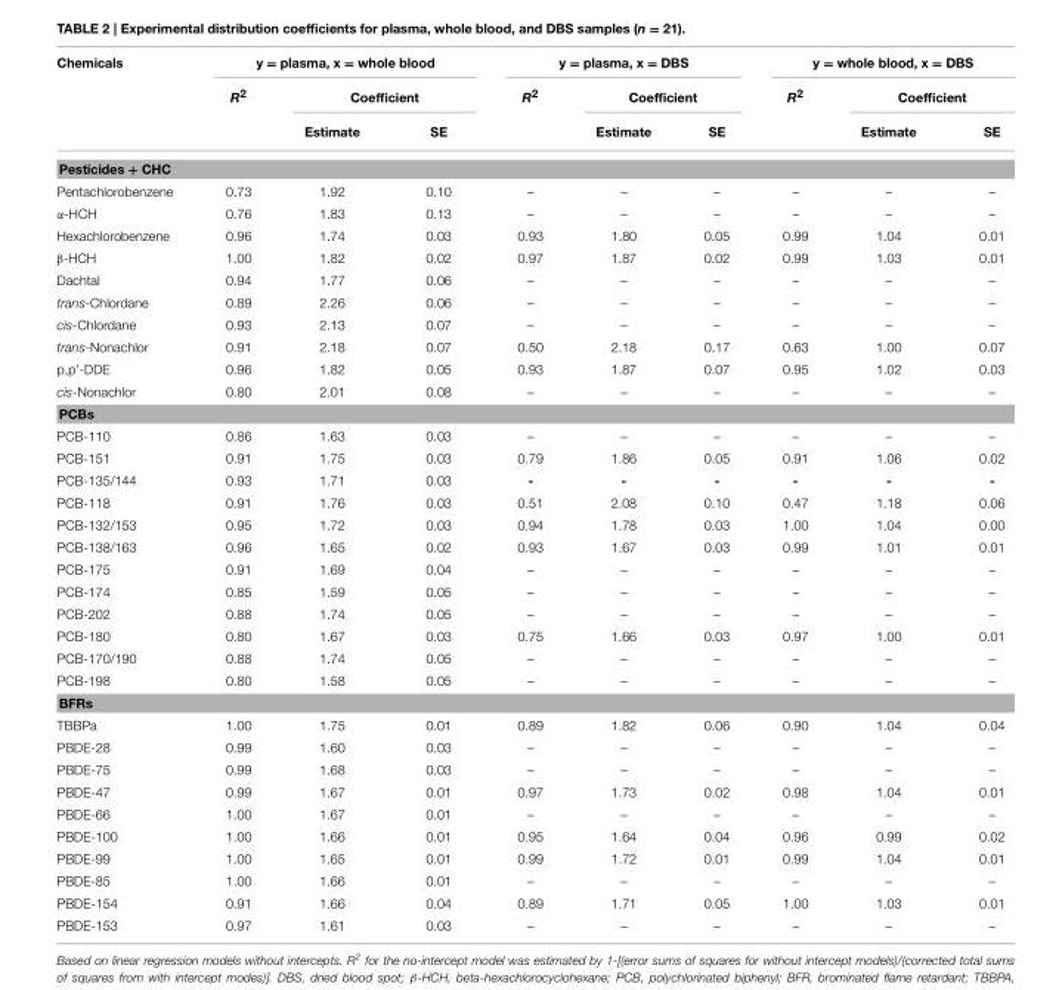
<table><thead><tr><td rowspan="3">Chemicals</td><td colspan="3">y = plasma, x = whole blood</td><td colspan="3">y = plasma, x = DBS</td><td colspan="3">y = whole blood, x = DBS</td></tr><tr><td rowspan="2">R<sup>2</sup></td><td colspan="2">Coefficient</td><td rowspan="2">R<sup>2</sup></td><td colspan="2">Coefficient</td><td rowspan="2">R<sup>2</sup></td><td colspan="2">Coefficient</td></tr><tr><td>Estimate</td><td>SE</td><td>Estimate</td><td>SE</td><td>Estimate</td><td>SE</td></tr></thead><tbody><tr><td colspan="10">Pesticides + CHC</td></tr><tr><td>Pentachlorobenzene</td><td>0.73</td><td>1.92</td><td>0.10</td><td>–</td><td>–</td><td>–</td><td>–</td><td>–</td><td>–</td></tr><tr><td>α-HCH</td><td>0.76</td><td>1.83</td><td>0.13</td><td>–</td><td>–</td><td>–</td><td>–</td><td>–</td><td>–</td></tr><tr><td>Hexachlorobenzene</td><td>0.96</td><td>1.74</td><td>0.03</td><td>0.93</td><td>1.80</td><td>0.05</td><td>0.99</td><td>1.04</td><td>0.01</td></tr><tr><td>β-HCH</td><td>1.00</td><td>1.82</td><td>0.02</td><td>0.97</td><td>1.87</td><td>0.02</td><td>0.99</td><td>1.03</td><td>0.01</td></tr><tr><td>Dachtal</td><td>0.94</td><td>1.77</td><td>0.06</td><td>–</td><td>–</td><td>–</td><td>–</td><td>–</td><td>–</td></tr><tr><td>trans-Chlordane</td><td>0.89</td><td>2.26</td><td>0.06</td><td>–</td><td>–</td><td>–</td><td>–</td><td>–</td><td>–</td></tr><tr><td>cis-Chlordane</td><td>0.93</td><td>2.13</td><td>0.07</td><td>–</td><td>–</td><td>–</td><td>–</td><td>–</td><td>–</td></tr><tr><td>trans-Nonachlor</td><td>0.91</td><td>2.18</td><td>0.07</td><td>0.50</td><td>2.18</td><td>0.17</td><td>0.63</td><td>1.00</td><td>0.07</td></tr><tr><td>p,p’-DDE</td><td>0.96</td><td>1.82</td><td>0.05</td><td>0.93</td><td>1.87</td><td>0.07</td><td>0.95</td><td>1.02</td><td>0.03</td></tr><tr><td>cis-Nonachlor</td><td>0.80</td><td>2.01</td><td>0.08</td><td>–</td><td>–</td><td>–</td><td>–</td><td>–</td><td>–</td></tr><tr><td colspan="10">PCBs</td></tr><tr><td>PCB-110</td><td>0.86</td><td>1.63</td><td>0.03</td><td>–</td><td>–</td><td>–</td><td>–</td><td>–</td><td>–</td></tr><tr><td>PCB-151</td><td>0.91</td><td>1.75</td><td>0.03</td><td>0.79</td><td>1.86</td><td>0.05</td><td>0.91</td><td>1.06</td><td>0.02</td></tr><tr><td>PCB-135/144</td><td>0.93</td><td>1.71</td><td>0.03</td><td>-</td><td>-</td><td>-</td><td>-</td><td>-</td><td>-</td></tr><tr><td>PCB-118</td><td>0.91</td><td>1.76</td><td>0.03</td><td>0.51</td><td>2.08</td><td>0.10</td><td>0.47</td><td>1.18</td><td>0.06</td></tr><tr><td>PCB-132/153</td><td>0.95</td><td>1.72</td><td>0.03</td><td>0.94</td><td>1.78</td><td>0.03</td><td>1.00</td><td>1.04</td><td>0.00</td></tr><tr><td>PCB-138/163</td><td>0.96</td><td>1.65</td><td>0.02</td><td>0.93</td><td>1.67</td><td>0.03</td><td>0.99</td><td>1.01</td><td>0.01</td></tr><tr><td>PCB-175</td><td>0.91</td><td>1.69</td><td>0.04</td><td>–</td><td>–</td><td>–</td><td>–</td><td>–</td><td>–</td></tr><tr><td>PCB-174</td><td>0.85</td><td>1.59</td><td>0.05</td><td>–</td><td>–</td><td>–</td><td>–</td><td>–</td><td>–</td></tr><tr><td>PCB-202</td><td>0.88</td><td>1.74</td><td>0.05</td><td>–</td><td>–</td><td>–</td><td>–</td><td>–</td><td>–</td></tr><tr><td>PCB-180</td><td>0.80</td><td>1.67</td><td>0.03</td><td>0.75</td><td>1.66</td><td>0.03</td><td>0.97</td><td>1.00</td><td>0.01</td></tr><tr><td>PCB-170/190</td><td>0.88</td><td>1.74</td><td>0.05</td><td>–</td><td>–</td><td>–</td><td>–</td><td>–</td><td>–</td></tr><tr><td>PCB-198</td><td>0.80</td><td>1.58</td><td>0.05</td><td>–</td><td>–</td><td>–</td><td>–</td><td>–</td><td>–</td></tr><tr><td colspan="10">BFRs</td></tr><tr><td>TBBPa</td><td>1.00</td><td>1.75</td><td>0.01</td><td>0.89</td><td>1.82</td><td>0.06</td><td>0.90</td><td>1.04</td><td>0.04</td></tr><tr><td>PBDE-28</td><td>0.99</td><td>1.60</td><td>0.03</td><td>–</td><td>–</td><td>–</td><td>–</td><td>–</td><td>–</td></tr><tr><td>PBDE-75</td><td>0.99</td><td>1.68</td><td>0.03</td><td>–</td><td>–</td><td>–</td><td>–</td><td>–</td><td>–</td></tr><tr><td>PBDE-47</td><td>0.99</td><td>1.67</td><td>0.01</td><td>0.97</td><td>1.73</td><td>0.02</td><td>0.98</td><td>1.04</td><td>0.01</td></tr><tr><td>PBDE-66</td><td>1.00</td><td>1.67</td><td>0.01</td><td>–</td><td>–</td><td>–</td><td>–</td><td>–</td><td>–</td></tr><tr><td>PBDE-100</td><td>1.00</td><td>1.66</td><td>0.01</td><td>0.95</td><td>1.64</td><td>0.04</td><td>0.96</td><td>0.99</td><td>0.02</td></tr><tr><td>PBDE-99</td><td>1.00</td><td>1.65</td><td>0.01</td><td>0.99</td><td>1.72</td><td>0.01</td><td>0.99</td><td>1.04</td><td>0.01</td></tr><tr><td>PBDE-85</td><td>1.00</td><td>1.66</td><td>0.01</td><td>–</td><td>–</td><td>–</td><td>–</td><td>–</td><td>–</td></tr><tr><td>PBDE-154</td><td>0.91</td><td>1.66</td><td>0.04</td><td>0.89</td><td>1.71</td><td>0.05</td><td>1.00</td><td>1.03</td><td>0.01</td></tr><tr><td>PBDE-153</td><td>0.97</td><td>1.61</td><td>0.03</td><td>–</td><td>–</td><td>–</td><td>–</td><td>–</td><td>–</td></tr></tbody></table>